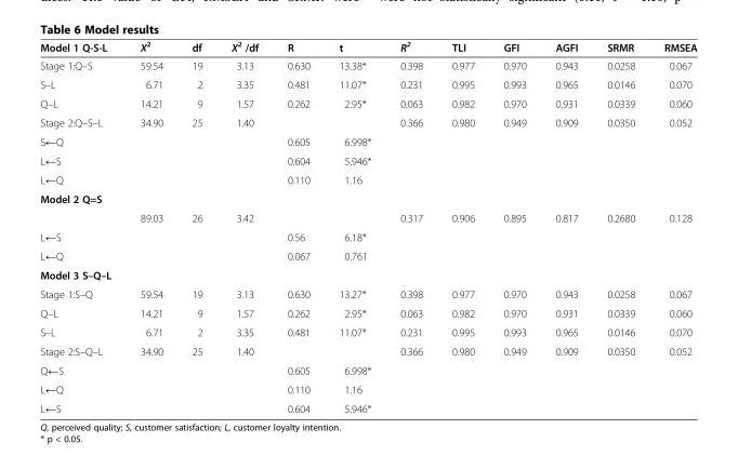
<table><thead><tr><td>Model 1 Q-S-L</td><td>X<sup>2</sup></td><td>df</td><td>X<sup>2</sup> /df</td><td>R</td><td>t</td><td>R<sup>2</sup></td><td>TLI</td><td>GFI</td><td>AGFI</td><td>SRMR</td><td>RMSEA</td></tr></thead><tbody><tr><td>Stage 1:Q–S</td><td>59.54</td><td>19</td><td>3.13</td><td>0.630</td><td>13.38*</td><td>0.398</td><td>0.977</td><td>0.970</td><td>0.943</td><td>0.0258</td><td>0.067</td></tr><tr><td>S–L</td><td>6.71</td><td>2</td><td>3.35</td><td>0.481</td><td>11.07*</td><td>0.231</td><td>0.995</td><td>0.993</td><td>0.965</td><td>0.0146</td><td>0.070</td></tr><tr><td>Q–L</td><td>14.21</td><td>9</td><td>1.57</td><td>0.262</td><td>2.95*</td><td>0.063</td><td>0.982</td><td>0.970</td><td>0.931</td><td>0.0339</td><td>0.060</td></tr><tr><td>Stage 2:Q–S–L</td><td>34.90</td><td>25</td><td>1.40</td><td></td><td></td><td>0.366</td><td>0.980</td><td>0.949</td><td>0.909</td><td>0.0350</td><td>0.052</td></tr><tr><td>S←Q</td><td></td><td></td><td></td><td>0.605</td><td>6.998*</td><td></td><td></td><td></td><td></td><td></td><td></td></tr><tr><td>L←S</td><td></td><td></td><td></td><td>0.604</td><td>5.946*</td><td></td><td></td><td></td><td></td><td></td><td></td></tr><tr><td>L←Q</td><td></td><td></td><td></td><td>0.110</td><td>1.16</td><td></td><td></td><td></td><td></td><td></td><td></td></tr><tr><td colspan="12">Model 2 Q=S</td></tr><tr><td></td><td>89.03</td><td>26</td><td>3.42</td><td></td><td></td><td>0.317</td><td>0.906</td><td>0.895</td><td>0.817</td><td>0.2680</td><td>0.128</td></tr><tr><td>L←S</td><td></td><td></td><td></td><td>0.56</td><td>6.18*</td><td></td><td></td><td></td><td></td><td></td><td></td></tr><tr><td>L←Q</td><td></td><td></td><td></td><td>0.067</td><td>0.761</td><td></td><td></td><td></td><td></td><td></td><td></td></tr><tr><td colspan="12">Model 3 S–Q–L</td></tr><tr><td>Stage 1:S–Q</td><td>59.54</td><td>19</td><td>3.13</td><td>0.630</td><td>13.27*</td><td>0.398</td><td>0.977</td><td>0.970</td><td>0.943</td><td>0.0258</td><td>0.067</td></tr><tr><td>Q–L</td><td>14.21</td><td>9</td><td>1.57</td><td>0.262</td><td>2.95*</td><td>0.063</td><td>0.982</td><td>0.970</td><td>0.931</td><td>0.0339</td><td>0.060</td></tr><tr><td>S–L</td><td>6.71</td><td>2</td><td>3.35</td><td>0.481</td><td>11.07*</td><td>0.231</td><td>0.995</td><td>0.993</td><td>0.965</td><td>0.0146</td><td>0.070</td></tr><tr><td>Stage 2:S–Q–L</td><td>34.90</td><td>25</td><td>1.40</td><td></td><td></td><td>0.366</td><td>0.980</td><td>0.949</td><td>0.909</td><td>0.0350</td><td>0.052</td></tr><tr><td>Q←S</td><td></td><td></td><td></td><td>0.605</td><td>6.998*</td><td></td><td></td><td></td><td></td><td></td><td></td></tr><tr><td>L←Q</td><td></td><td></td><td></td><td>0.110</td><td>1.16</td><td></td><td></td><td></td><td></td><td></td><td></td></tr><tr><td>L←S</td><td></td><td></td><td></td><td>0.604</td><td>5.946*</td><td></td><td></td><td></td><td></td><td></td><td></td></tr></tbody></table>